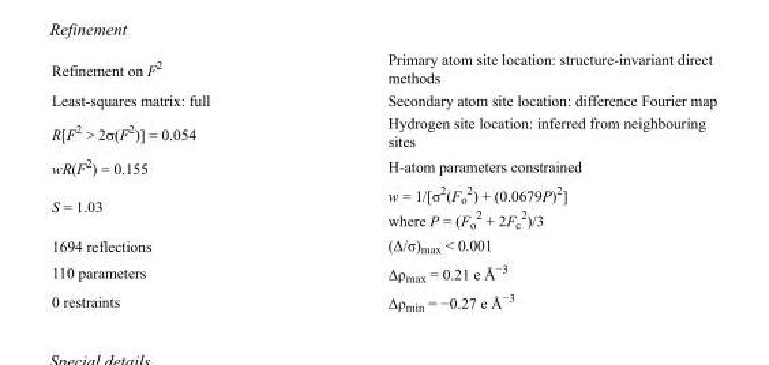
<table><tbody><tr><td>Refinement on F<sup>2</sup></td><td>Primary atom site location: structure-invariant direct methods</td></tr><tr><td>Least-squares matrix: full</td><td>Secondary atom site location: difference Fourier map</td></tr><tr><td>R[F<sup>2</sup> &gt; 2σ(F<sup>2</sup>)] = 0.054</td><td>Hydrogen site location: inferred from neighbouring sites</td></tr><tr><td>wR(F<sup>2</sup>) = 0.155</td><td>H-atom parameters constrained</td></tr><tr><td>S = 1.03</td><td>w = 1/[σ<sup>2</sup>(F<sub>o</sub> <sup>2</sup>) + (0.0679P)<sup>2</sup>] where P = (F<sub>o</sub> <sup>2</sup> + 2F<sub>c</sub> <sup>2</sup>)/3</td></tr><tr><td>1694 reflections</td><td>(Δ/σ)<sub>max</sub> &lt; 0.001</td></tr><tr><td>110 parameters</td><td>Δρ<sub>max</sub> = 0.21 e Å<sup>−3</sup></td></tr><tr><td>0 restraints</td><td>Δρ<sub>min</sub> = −0.27 e Å<sup>−3</sup></td></tr></tbody></table>